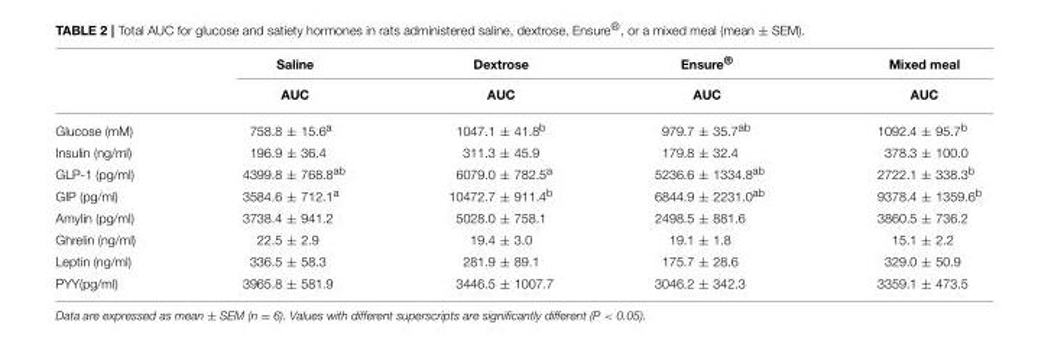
<table><thead><tr><td rowspan="2"></td><td rowspan="2">Saline AUC</td><td rowspan="2">Dextrose AUC</td><td rowspan="2">Ensure<sup>®</sup> AUC</td><td rowspan="2">Mixed meal AUC</td></tr><tr></tr></thead><tbody><tr><td>Glucose (mM)</td><td>758.8 ± 15.6<sup>a</sup></td><td>1047.1 ± 41.8<sup>b</sup></td><td>979.7 ± 35.7<sup>ab</sup></td><td>1092.4 ± 95.7<sup>b</sup></td></tr><tr><td>Insulin (ng/ml)</td><td>196.9 ± 36.4</td><td>311.3 ± 45.9</td><td>179.8 ± 32.4</td><td>378.3 ± 100.0</td></tr><tr><td>GLP-1 (pg/ml)</td><td>4399.8 ± 768.8<sup>ab</sup></td><td>6079.0 ± 782.5<sup>a</sup></td><td>5236.6 ± 1334.8<sup>ab</sup></td><td>2722.1 ± 338.3<sup>b</sup></td></tr><tr><td>GIP (pg/ml)</td><td>3584.6 ± 712.1<sup>a</sup></td><td>10472.7 ± 911.4<sup>b</sup></td><td>6844.9 ± 2231.0<sup>ab</sup></td><td>9378.4 ± 1359.6<sup>b</sup></td></tr><tr><td>Amylin (pg/ml)</td><td>3738.4 ± 941.2</td><td>5028.0 ± 758.1</td><td>2498.5 ± 881.6</td><td>3860.5 ± 736.2</td></tr><tr><td>Ghrelin (ng/ml)</td><td>22.5 ± 2.9</td><td>19.4 ± 3.0</td><td>19.1 ± 1.8</td><td>15.1 ± 2.2</td></tr><tr><td>Leptin (ng/ml)</td><td>336.5 ± 58.3</td><td>281.9 ± 89.1</td><td>175.7 ± 28.6</td><td>329.0 ± 50.9</td></tr><tr><td>PYY(pg/ml)</td><td>3965.8 ± 581.9</td><td>3446.5 ± 1007.7</td><td>3046.2 ± 342.3</td><td>3359.1 ± 473.5</td></tr></tbody></table>